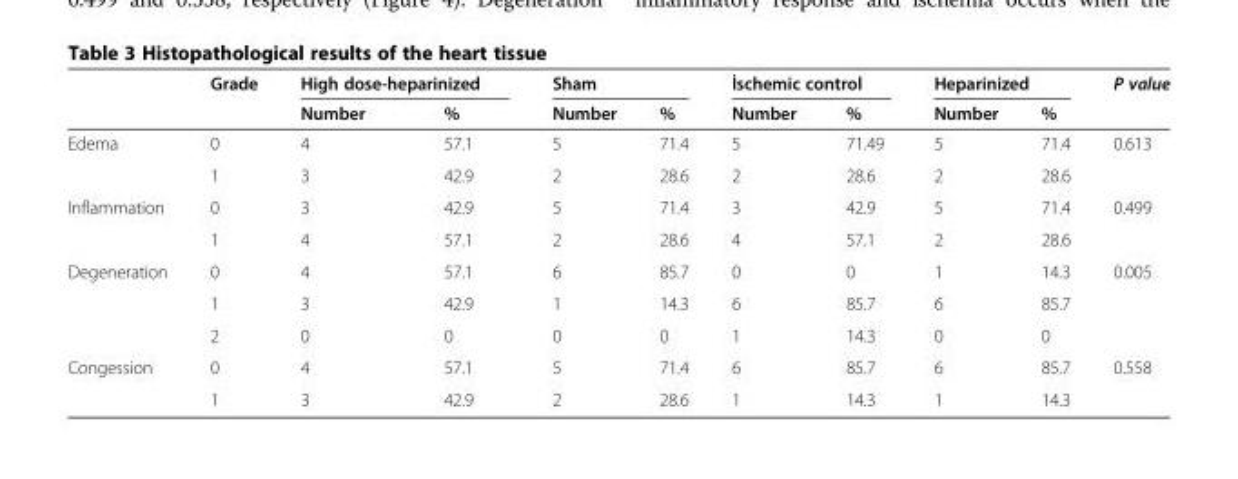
<table><thead><tr><td rowspan="2"></td><td rowspan="2">Grade</td><td colspan="2">High dose-heparinized</td><td colspan="2">Sham</td><td colspan="2">İschemic control</td><td colspan="2">Heparinized</td><td rowspan="2">P value</td></tr><tr><td>Number</td><td>%</td><td>Number</td><td>%</td><td>Number</td><td>%</td><td>Number</td><td>%</td></tr></thead><tbody><tr><td rowspan="2">Edema</td><td>0</td><td>4</td><td>57.1</td><td>5</td><td>71.4</td><td>5</td><td>71.49</td><td>5</td><td>71.4</td><td rowspan="2">0.613</td></tr><tr><td>1</td><td>3</td><td>42.9</td><td>2</td><td>28.6</td><td>2</td><td>28.6</td><td>2</td><td>28.6</td></tr><tr><td rowspan="2">Inflammation</td><td>0</td><td>3</td><td>42.9</td><td>5</td><td>71.4</td><td>3</td><td>42.9</td><td>5</td><td>71.4</td><td rowspan="2">0.499</td></tr><tr><td>1</td><td>4</td><td>57.1</td><td>2</td><td>28.6</td><td>4</td><td>57.1</td><td>2</td><td>28.6</td></tr><tr><td rowspan="3">Degeneration</td><td>0</td><td>4</td><td>57.1</td><td>6</td><td>85.7</td><td>0</td><td>0</td><td>1</td><td>14.3</td><td rowspan="3">0.005</td></tr><tr><td>1</td><td>3</td><td>42.9</td><td>1</td><td>14.3</td><td>6</td><td>85.7</td><td>6</td><td>85.7</td></tr><tr><td>2</td><td>0</td><td>0</td><td>0</td><td>0</td><td>1</td><td>14.3</td><td>0</td><td>0</td></tr><tr><td rowspan="2">Congession</td><td>0</td><td>4</td><td>57.1</td><td>5</td><td>71.4</td><td>6</td><td>85.7</td><td>6</td><td>85.7</td><td rowspan="2">0.558</td></tr><tr><td>1</td><td>3</td><td>42.9</td><td>2</td><td>28.6</td><td>1</td><td>14.3</td><td>1</td><td>14.3</td></tr></tbody></table>